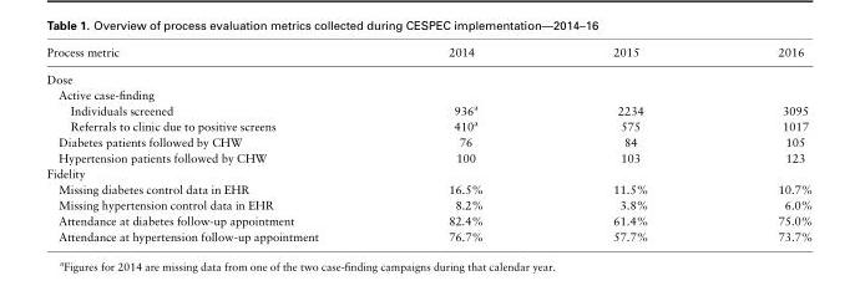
<table><thead><tr><td>Process metric</td><td>2014</td><td>2015</td><td>2016</td></tr></thead><tbody><tr><td colspan="4">Dose</td></tr><tr><td colspan="4">Active case-finding</td></tr><tr><td>Individuals screened</td><td>936<sup>a</sup></td><td>2234</td><td>3095</td></tr><tr><td>Referrals to clinic due to positive screens</td><td>410<sup>a</sup></td><td>575</td><td>1017</td></tr><tr><td>Diabetes patients followed by CHW</td><td>76</td><td>84</td><td>105</td></tr><tr><td>Hypertension patients followed by CHW</td><td>100</td><td>103</td><td>123</td></tr><tr><td colspan="4">Fidelity</td></tr><tr><td>Missing diabetes control data in EHR</td><td>16.5%</td><td>11.5%</td><td>10.7%</td></tr><tr><td>Missing hypertension control data in EHR</td><td>8.2%</td><td>3.8%</td><td>6.0%</td></tr><tr><td>Attendance at diabetes follow-up appointment</td><td>82.4%</td><td>61.4%</td><td>75.0%</td></tr><tr><td>Attendance at hypertension follow-up appointment</td><td>76.7%</td><td>57.7%</td><td>73.7%</td></tr></tbody></table>